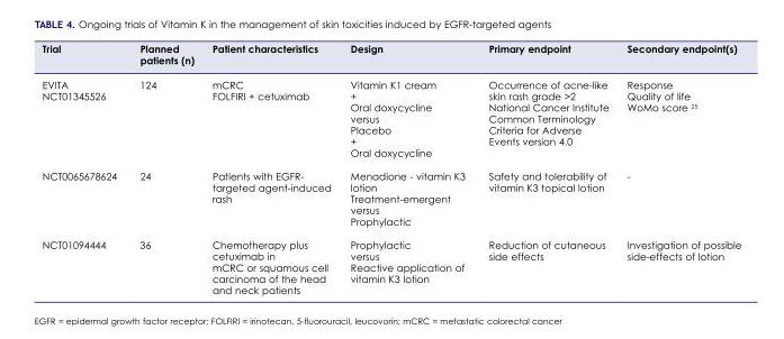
<table><thead><tr><td>Trial</td><td>Planned patients (n)</td><td>Patient characteristics</td><td>Design</td><td>Primary endpoint</td><td>Secondary endpoint(s)</td></tr></thead><tbody><tr><td>EVITA NCT01345526</td><td>124</td><td>mCRC FOLFIRI + cetuximab</td><td>Vitamin K1 cream + Oral doxycycline versus Placebo + Oral doxycycline</td><td>Occurrence of acne-like skin rash grade &gt;2 National Cancer Institute Common Terminology Criteria for Adverse Events version 4.0</td><td>Response Quality of life WoMo score 25</td></tr><tr><td>NCT0065678624</td><td>24</td><td>Patients with EGFR- targeted agent-induced rash</td><td>Menadione - vitamin K3 lotion Treatment-emergent versus Prophylactic</td><td>Safety and tolerability of vitamin K3 topical lotion</td><td>-</td></tr><tr><td>NCT01094444</td><td>36</td><td>Chemotherapy plus cetuximab in mCRC or squamous cell carcinoma of the head and neck patients</td><td>Prophylactic versus Reactive application of vitamin K3 lotion</td><td>Reduction of cutaneous side effects</td><td>Investigation of possible side-effects of lotion</td></tr></tbody></table>